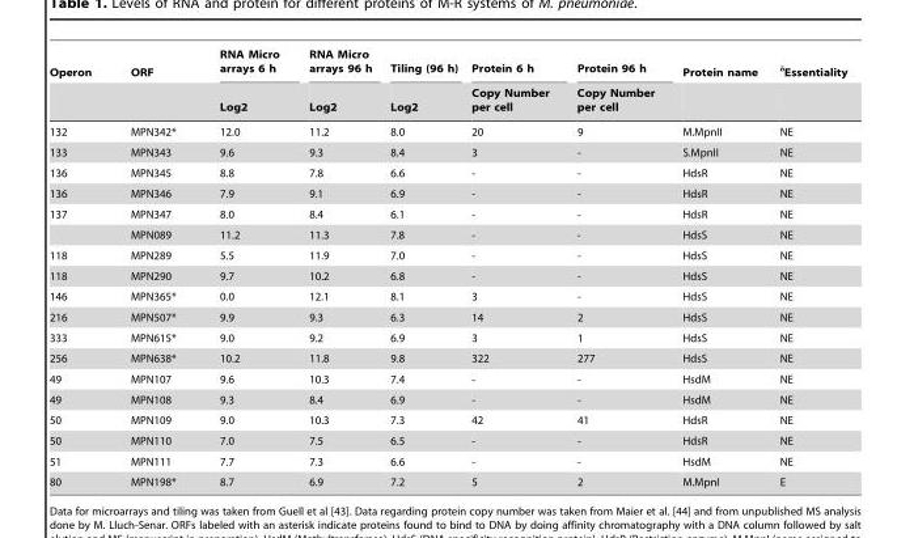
<table><thead><tr><td rowspan="2">Operon</td><td rowspan="2">ORF</td><td rowspan="2">RNA Micro arrays 6 h Log2</td><td rowspan="2">RNA Micro arrays 96 h Log2</td><td rowspan="2">Tiling (96 h) Log2</td><td rowspan="2">Protein 6 h Copy Number per cell</td><td rowspan="2">Protein 96 h Copy Number per cell</td><td rowspan="2">Protein name</td><td rowspan="2">δEssentiality</td></tr><tr></tr></thead><tbody><tr><td>132</td><td>MPN342*</td><td>12.0</td><td>11.2</td><td>8.0</td><td>20</td><td>9</td><td>M.MpnII</td><td>NE</td></tr><tr><td>133</td><td>MPN343</td><td>9.6</td><td>9.3</td><td>8.4</td><td>3</td><td>-</td><td>S.MpnII</td><td>NE</td></tr><tr><td>136</td><td>MPN345</td><td>8.8</td><td>7.8</td><td>6.6</td><td>-</td><td>-</td><td>HdsR</td><td>NE</td></tr><tr><td>136</td><td>MPN346</td><td>7.9</td><td>9.1</td><td>6.9</td><td>-</td><td>-</td><td>HdsR</td><td>NE</td></tr><tr><td rowspan="2">137</td><td>MPN347</td><td>8.0</td><td>8.4</td><td>6.1</td><td>-</td><td>-</td><td>HdsR</td><td>NE</td></tr><tr><td>MPN089</td><td>11.2</td><td>11.3</td><td>7.8</td><td>-</td><td>-</td><td>HdsS</td><td>NE</td></tr><tr><td>118</td><td>MPN289</td><td>5.5</td><td>11.9</td><td>7.0</td><td>-</td><td>-</td><td>HdsS</td><td>NE</td></tr><tr><td>118</td><td>MPN290</td><td>9.7</td><td>10.2</td><td>6.8</td><td>-</td><td>-</td><td>HdsS</td><td>NE</td></tr><tr><td>146</td><td>MPN365*</td><td>0.0</td><td>12.1</td><td>8.1</td><td>3</td><td>-</td><td>HdsS</td><td>NE</td></tr><tr><td>216</td><td>MPN507*</td><td>9.9</td><td>9.3</td><td>6.3</td><td>14</td><td>2</td><td>HdsS</td><td>NE</td></tr><tr><td>333</td><td>MPN615*</td><td>9.0</td><td>9.2</td><td>6.9</td><td>3</td><td>1</td><td>HdsS</td><td>NE</td></tr><tr><td>256</td><td>MPN638*</td><td>10.2</td><td>11.8</td><td>9.8</td><td>322</td><td>277</td><td>HdsS</td><td>NE</td></tr><tr><td>49</td><td>MPN107</td><td>9.6</td><td>10.3</td><td>7.4</td><td>-</td><td>-</td><td>HsdM</td><td>NE</td></tr><tr><td>49</td><td>MPN108</td><td>9.3</td><td>8.4</td><td>6.9</td><td>-</td><td>-</td><td>HsdM</td><td>NE</td></tr><tr><td>50</td><td>MPN109</td><td>9.0</td><td>10.3</td><td>7.3</td><td>42</td><td>41</td><td>HdsR</td><td>NE</td></tr><tr><td>50</td><td>MPN110</td><td>7.0</td><td>7.5</td><td>6.5</td><td>-</td><td>-</td><td>HdsR</td><td>NE</td></tr><tr><td>51</td><td>MPN111</td><td>7.7</td><td>7.3</td><td>6.6</td><td>-</td><td>-</td><td>HsdM</td><td>NE</td></tr><tr><td>80</td><td>MPN198*</td><td>8.7</td><td>6.9</td><td>7.2</td><td>5</td><td>2</td><td>M.MpnI</td><td>E</td></tr></tbody></table>